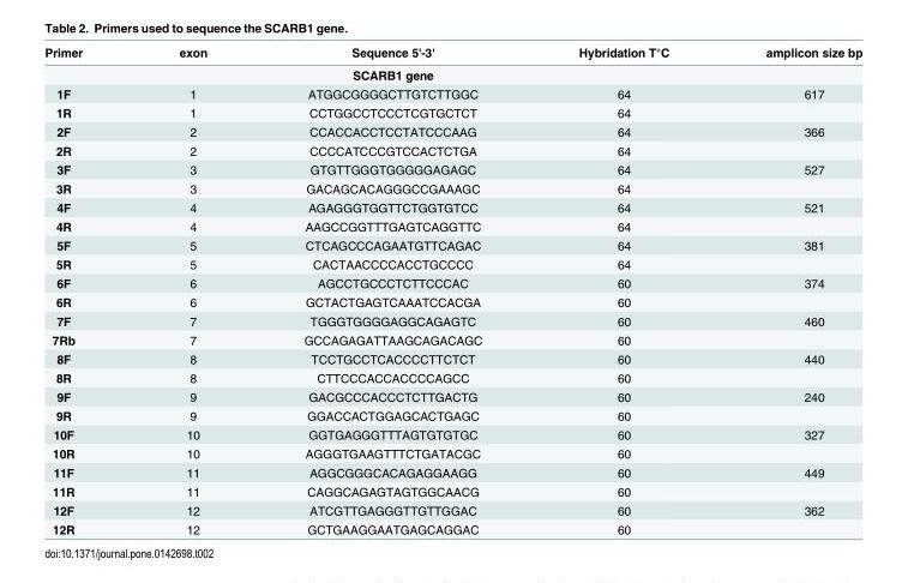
<table><thead><tr><td>Primer</td><td>exon</td><td>Sequence 5&#x27;-3&#x27;</td><td>Hybridation T°C</td><td>amplicon size bp</td></tr></thead><tbody><tr><td></td><td></td><td>SCARB1 gene</td><td></td><td></td></tr><tr><td>1F</td><td>1</td><td>ATGGCGGGGCTTGTCTTGGC</td><td>64</td><td>617</td></tr><tr><td>1R</td><td>1</td><td>CCTGGCCTCCCTCGTGCTCT</td><td>64</td><td></td></tr><tr><td>2F</td><td>2</td><td>CCACCACCTCCTATCCCAAG</td><td>64</td><td>366</td></tr><tr><td>2R</td><td>2</td><td>CCCCATCCCGTCCACTCTGA</td><td>64</td><td></td></tr><tr><td>3F</td><td>3</td><td>GTGTTGGGTGGGGGAGAGC</td><td>64</td><td>527</td></tr><tr><td>3R</td><td>3</td><td>GACAGCACAGGGCCGAAAGC</td><td>64</td><td></td></tr><tr><td>4F</td><td>4</td><td>AGAGGGTGGTTCTGGTGTCC</td><td>64</td><td>521</td></tr><tr><td>4R</td><td>4</td><td>AAGCCGGTTTGAGTCAGGTTC</td><td>64</td><td></td></tr><tr><td>5F</td><td>5</td><td>CTCAGCCCAGAATGTTCAGAC</td><td>64</td><td>381</td></tr><tr><td>5R</td><td>5</td><td>CACTAACCCCACCTGCCCC</td><td>64</td><td></td></tr><tr><td>6F</td><td>6</td><td>AGCCTGCCCTCTTCCCAC</td><td>60</td><td>374</td></tr><tr><td>6R</td><td>6</td><td>GCTACTGAGTCAAATCCACGA</td><td>60</td><td></td></tr><tr><td>7F</td><td>7</td><td>TGGGTGGGGAGGCAGAGTC</td><td>60</td><td>460</td></tr><tr><td>7Rb</td><td>7</td><td>GCCAGAGATTAAGCAGACAGC</td><td>60</td><td></td></tr><tr><td>8F</td><td>8</td><td>TCCTGCCTCACCCCTTCTCT</td><td>60</td><td>440</td></tr><tr><td>8R</td><td>8</td><td>CTTCCCACCACCCCAGCC</td><td>60</td><td></td></tr><tr><td>9F</td><td>9</td><td>GACGCCCACCCTCTTGACTG</td><td>60</td><td>240</td></tr><tr><td>9R</td><td>9</td><td>GGACCACTGGAGCACTGAGC</td><td>60</td><td></td></tr><tr><td>10F</td><td>10</td><td>GGTGAGGGTTTAGTGTGTGC</td><td>60</td><td>327</td></tr><tr><td>10R</td><td>10</td><td>AGGGTGAAGTTTCTGATACGC</td><td>60</td><td></td></tr><tr><td>11F</td><td>11</td><td>AGGCGGGCACAGAGGAAGG</td><td>60</td><td>449</td></tr><tr><td>11R</td><td>11</td><td>CAGGCAGAGTAGTGGCAACG</td><td>60</td><td></td></tr><tr><td>12F</td><td>12</td><td>ATCGTTGAGGGTTGTTGGAC</td><td>60</td><td>362</td></tr><tr><td>12R</td><td>12</td><td>GCTGAAGGAATGAGCAGGAC</td><td>60</td><td></td></tr></tbody></table>